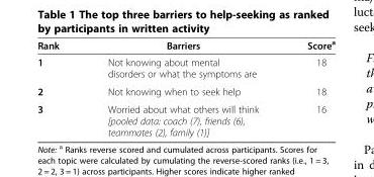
<table><thead><tr><td>Rank</td><td>Barriers</td><td>Score<sup>a</sup></td></tr></thead><tbody><tr><td>1</td><td>Not knowing about mental disorders or what the symptoms are</td><td>18</td></tr><tr><td>2</td><td>Not knowing when to seek help</td><td>18</td></tr><tr><td>3</td><td>Worried about what others will think [pooled data: coach (7), friends (6), teammates (2), family (1)]</td><td>16</td></tr></tbody></table>